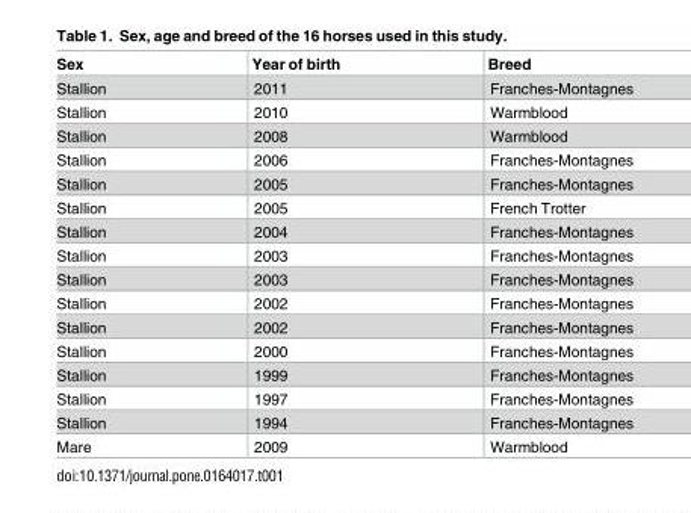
<table><thead><tr><td>Sex</td><td>Year of birth</td><td>Breed</td></tr></thead><tbody><tr><td>Stallion</td><td>2011</td><td>Franches-Montagnes</td></tr><tr><td>Stallion</td><td>2010</td><td>Warmblood</td></tr><tr><td>Stallion</td><td>2008</td><td>Warmblood</td></tr><tr><td>Stallion</td><td>2006</td><td>Franches-Montagnes</td></tr><tr><td>Stallion</td><td>2005</td><td>Franches-Montagnes</td></tr><tr><td>Stallion</td><td>2005</td><td>French Trotter</td></tr><tr><td>Stallion</td><td>2004</td><td>Franches-Montagnes</td></tr><tr><td>Stallion</td><td>2003</td><td>Franches-Montagnes</td></tr><tr><td>Stallion</td><td>2003</td><td>Franches-Montagnes</td></tr><tr><td>Stallion</td><td>2002</td><td>Franches-Montagnes</td></tr><tr><td>Stallion</td><td>2002</td><td>Franches-Montagnes</td></tr><tr><td>Stallion</td><td>2000</td><td>Franches-Montagnes</td></tr><tr><td>Stallion</td><td>1999</td><td>Franches-Montagnes</td></tr><tr><td>Stallion</td><td>1997</td><td>Franches-Montagnes</td></tr><tr><td>Stallion</td><td>1994</td><td>Franches-Montagnes</td></tr><tr><td>Mare</td><td>2009</td><td>Warmblood</td></tr></tbody></table>